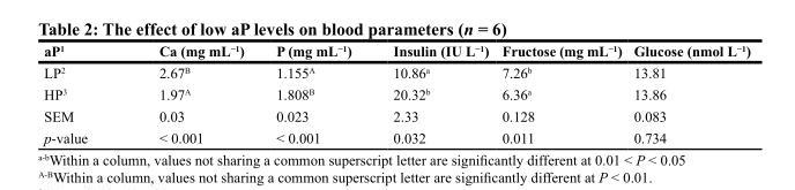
<table><thead><tr><td>aP<sup>1</sup></td><td>Ca (mg mL<sup>−1</sup>)</td><td>P (mg mL<sup>−1</sup>)</td><td>Insulin (IU L<sup>−1</sup>)</td><td>Fructose (mg mL<sup>−1</sup>)</td><td>Glucose (nmol L<sup>−1</sup>)</td></tr></thead><tbody><tr><td>LP<sup>2</sup></td><td>2.67<sup>B</sup></td><td>1.155<sup>A</sup></td><td>10.86<sup>a</sup></td><td>7.26<sup>b</sup></td><td>13.81</td></tr><tr><td>HP<sup>3</sup></td><td>1.97<sup>A</sup></td><td>1.808<sup>B</sup></td><td>20.32<sup>b</sup></td><td>6.36<sup>a</sup></td><td>13.86</td></tr><tr><td>SEM</td><td>0.03</td><td>0.023</td><td>2.33</td><td>0.128</td><td>0.083</td></tr><tr><td>p-value</td><td>&lt; 0.001</td><td>&lt; 0.001</td><td>0.032</td><td>0.011</td><td>0.734</td></tr></tbody></table>